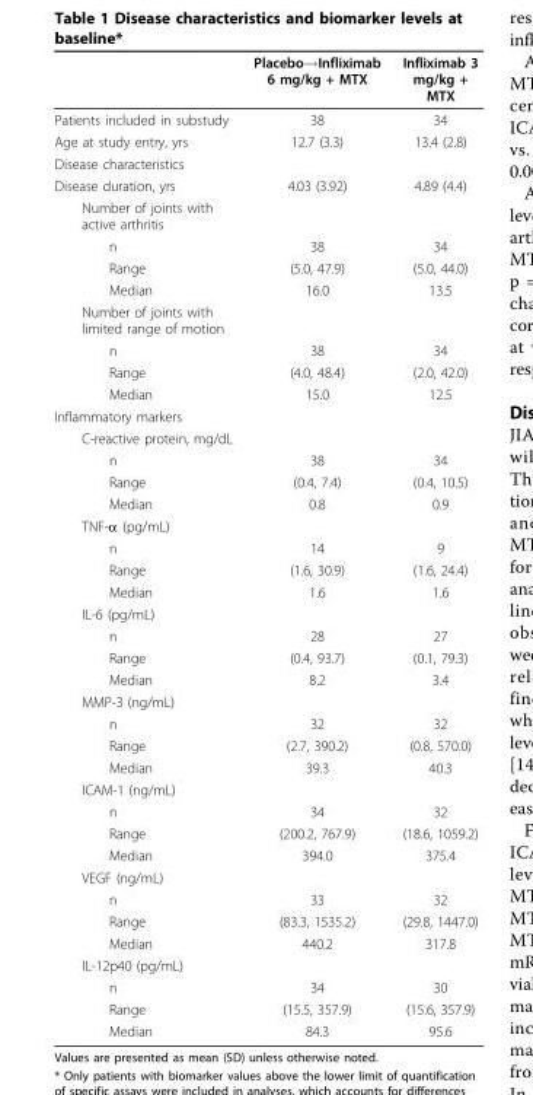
<table><thead><tr><td></td><td>Placebo→Infliximab 6 mg/kg + MTX</td><td>Infliximab 3 mg/kg + MTX</td></tr></thead><tbody><tr><td>Patients included in substudy</td><td>38</td><td>34</td></tr><tr><td>Age at study entry, yrs</td><td>12.7 (3.3)</td><td>13.4 (2.8)</td></tr><tr><td colspan="3">Disease characteristics</td></tr><tr><td>Disease duration, yrs</td><td>4.03 (3.92)</td><td>4.89 (4.4)</td></tr><tr><td colspan="3">Number of joints with active arthritis</td></tr><tr><td>n</td><td>38</td><td>34</td></tr><tr><td>Range</td><td>(5.0, 47.9)</td><td>(5.0, 44.0)</td></tr><tr><td>Median</td><td>16.0</td><td>13.5</td></tr><tr><td colspan="3">Number of joints with limited range of motion</td></tr><tr><td>n</td><td>38</td><td>34</td></tr><tr><td>Range</td><td>(4.0, 48.4)</td><td>(2.0, 42.0)</td></tr><tr><td>Median</td><td>15.0</td><td>12.5</td></tr><tr><td colspan="3">Inflammatory markers</td></tr><tr><td colspan="3">C-reactive protein, mg/dL</td></tr><tr><td>n</td><td>38</td><td>34</td></tr><tr><td>Range</td><td>(0.4, 7.4)</td><td>(0.4, 10.5)</td></tr><tr><td>Median</td><td>0.8</td><td>0.9</td></tr><tr><td colspan="3">TNF-α (pg/mL)</td></tr><tr><td>n</td><td>14</td><td>9</td></tr><tr><td>Range</td><td>(1.6, 30.9)</td><td>(1.6, 24.4)</td></tr><tr><td>Median</td><td>1.6</td><td>1.6</td></tr><tr><td colspan="3">IL-6 (pg/mL)</td></tr><tr><td>n</td><td>28</td><td>27</td></tr><tr><td>Range</td><td>(0.4, 93.7)</td><td>(0.1, 79.3)</td></tr><tr><td>Median</td><td>8.2</td><td>3.4</td></tr><tr><td colspan="3">MMP-3 (ng/mL)</td></tr><tr><td>n</td><td>32</td><td>32</td></tr><tr><td>Range</td><td>(2.7, 390.2)</td><td>(0.8, 570.0)</td></tr><tr><td>Median</td><td>39.3</td><td>40.3</td></tr><tr><td colspan="3">ICAM-1 (ng/mL)</td></tr><tr><td>n</td><td>34</td><td>32</td></tr><tr><td>Range</td><td>(200.2, 767.9)</td><td>(18.6, 1059.2)</td></tr><tr><td>Median</td><td>394.0</td><td>375.4</td></tr><tr><td colspan="3">VEGF (ng/mL)</td></tr><tr><td>n</td><td>33</td><td>32</td></tr><tr><td>Range</td><td>(83.3, 1535.2)</td><td>(29.8, 1447.0)</td></tr><tr><td>Median</td><td>440.2</td><td>317.8</td></tr><tr><td colspan="3">IL-12p40 (pg/mL)</td></tr><tr><td>n</td><td>34</td><td>30</td></tr><tr><td>Range</td><td>(15.5, 357.9)</td><td>(15.6, 357.9)</td></tr><tr><td>Median</td><td>84.3</td><td>95.6</td></tr></tbody></table>